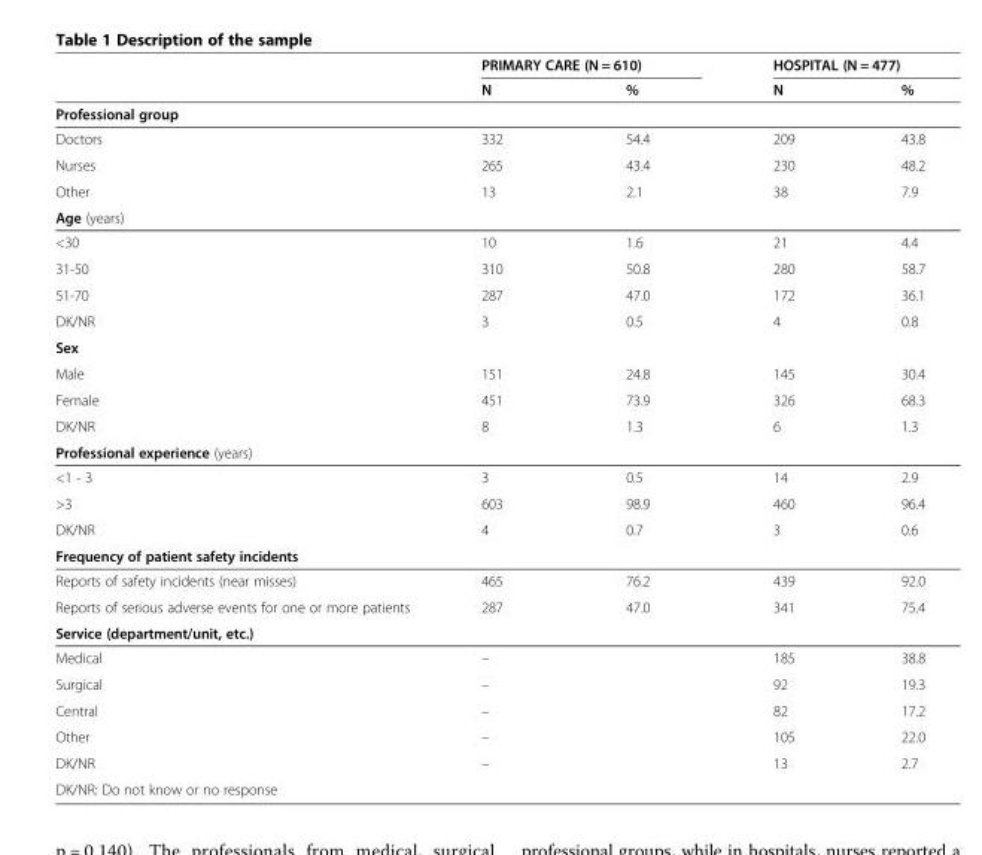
<table><thead><tr><td rowspan="2"></td><td colspan="2">PRIMARY CARE (N = 610)</td><td colspan="2">HOSPITAL (N = 477)</td></tr><tr><td>N</td><td>%</td><td>N</td><td>%</td></tr></thead><tbody><tr><td colspan="5">Professional group</td></tr><tr><td>Doctors</td><td>332</td><td>54.4</td><td>209</td><td>43.8</td></tr><tr><td>Nurses</td><td>265</td><td>43.4</td><td>230</td><td>48.2</td></tr><tr><td>Other</td><td>13</td><td>2.1</td><td>38</td><td>7.9</td></tr><tr><td colspan="5">Age (years)</td></tr><tr><td>&lt;30</td><td>10</td><td>1.6</td><td>21</td><td>4.4</td></tr><tr><td>31-50</td><td>310</td><td>50.8</td><td>280</td><td>58.7</td></tr><tr><td>51-70</td><td>287</td><td>47.0</td><td>172</td><td>36.1</td></tr><tr><td>DK/NR</td><td>3</td><td>0.5</td><td>4</td><td>0.8</td></tr><tr><td colspan="5">Sex</td></tr><tr><td>Male</td><td>151</td><td>24.8</td><td>145</td><td>30.4</td></tr><tr><td>Female</td><td>451</td><td>73.9</td><td>326</td><td>68.3</td></tr><tr><td>DK/NR</td><td>8</td><td>1.3</td><td>6</td><td>1.3</td></tr><tr><td colspan="5">Professional experience (years)</td></tr><tr><td>&lt;1 - 3</td><td>3</td><td>0.5</td><td>14</td><td>2.9</td></tr><tr><td>&gt;3</td><td>603</td><td>98.9</td><td>460</td><td>96.4</td></tr><tr><td>DK/NR</td><td>4</td><td>0.7</td><td>3</td><td>0.6</td></tr><tr><td colspan="5">Frequency of patient safety incidents</td></tr><tr><td>Reports of safety incidents (near misses)</td><td>465</td><td>76.2</td><td>439</td><td>92.0</td></tr><tr><td>Reports of serious adverse events for one or more patients</td><td>287</td><td>47.0</td><td>341</td><td>75.4</td></tr><tr><td colspan="5">Service (department/unit, etc.)</td></tr><tr><td>Medical</td><td>–</td><td></td><td>185</td><td>38.8</td></tr><tr><td>Surgical</td><td>–</td><td></td><td>92</td><td>19.3</td></tr><tr><td>Central</td><td>–</td><td></td><td>82</td><td>17.2</td></tr><tr><td>Other</td><td>–</td><td></td><td>105</td><td>22.0</td></tr><tr><td>DK/NR</td><td>–</td><td></td><td>13</td><td>2.7</td></tr><tr><td>DK/NR: Do not know or no response</td><td></td><td></td><td></td><td></td></tr></tbody></table>